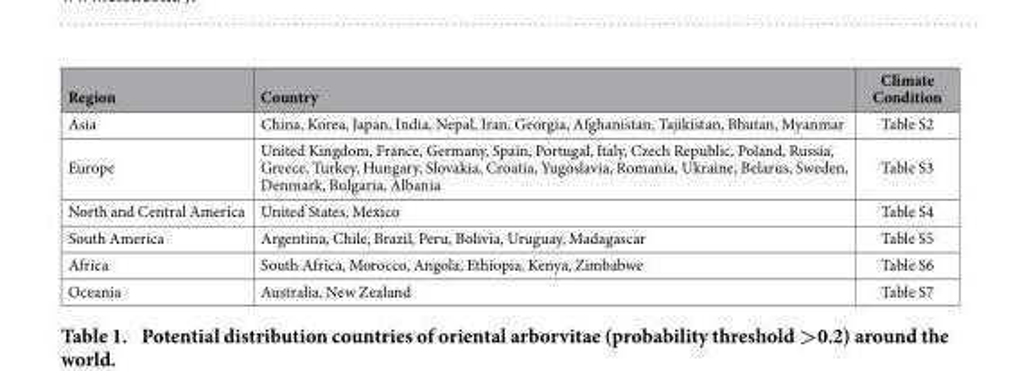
<table><thead><tr><td>Region</td><td>Country</td><td>Climate Condition</td></tr></thead><tbody><tr><td>Asia</td><td>China, Korea, Japan, India, Nepal, Iran, Georgia, Afghanistan, Tajikistan, Bhutan, Myanmar</td><td>Table S2</td></tr><tr><td>Europe</td><td>United Kingdom, France, Germany, Spain, Portugal, Italy, Czech Republic, Poland, Russia, Greece, Turkey, Hungary, Slovakia, Croatia, Yugoslavia, Romania, Ukraine, Belarus, Sweden, Denmark, Bulgaria, Albania</td><td>Table S3</td></tr><tr><td>North and Central America</td><td>United States, Mexico</td><td>Table S4</td></tr><tr><td>South America</td><td>Argentina, Chile, Brazil, Peru, Bolivia, Uruguay, Madagascar</td><td>Table S5</td></tr><tr><td>Africa</td><td>South Africa, Morocco, Angola, Ethiopia, Kenya, Zimbabwe</td><td>Table S6</td></tr><tr><td>Oceania</td><td>Australia, New Zealand</td><td>Table S7</td></tr></tbody></table>